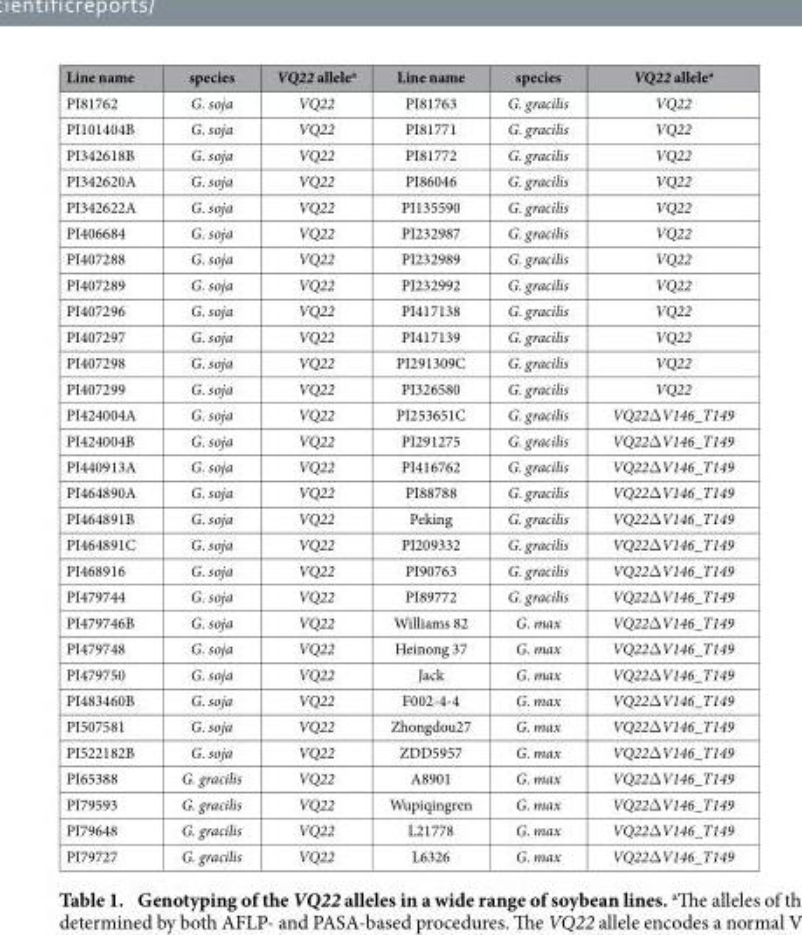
<table><thead><tr><td>Line name</td><td>species</td><td>VQ22 allele<sup>a</sup></td><td>Line name</td><td>species</td><td>VQ22 allele<sup>a</sup></td></tr></thead><tbody><tr><td>PI81762</td><td>G. soja</td><td>VQ22</td><td>PI81763</td><td>G. gracilis</td><td>VQ22</td></tr><tr><td>PI101404B</td><td>G. soja</td><td>VQ22</td><td>PI81771</td><td>G. gracilis</td><td>VQ22</td></tr><tr><td>PI342618B</td><td>G. soja</td><td>VQ22</td><td>PI81772</td><td>G. gracilis</td><td>VQ22</td></tr><tr><td>PI342620A</td><td>G. soja</td><td>VQ22</td><td>PI86046</td><td>G. gracilis</td><td>VQ22</td></tr><tr><td>PI342622A</td><td>G. soja</td><td>VQ22</td><td>PI135590</td><td>G. gracilis</td><td>VQ22</td></tr><tr><td>PI406684</td><td>G. soja</td><td>VQ22</td><td>PI232987</td><td>G. gracilis</td><td>VQ22</td></tr><tr><td>PI407288</td><td>G. soja</td><td>VQ22</td><td>PI232989</td><td>G. gracilis</td><td>VQ22</td></tr><tr><td>PI407289</td><td>G. soja</td><td>VQ22</td><td>PI232992</td><td>G. gracilis</td><td>VQ22</td></tr><tr><td>PI407296</td><td>G. soja</td><td>VQ22</td><td>PI417138</td><td>G. gracilis</td><td>VQ22</td></tr><tr><td>PI407297</td><td>G. soja</td><td>VQ22</td><td>PI417139</td><td>G. gracilis</td><td>VQ22</td></tr><tr><td>PI407298</td><td>G. soja</td><td>VQ22</td><td>PI291309C</td><td>G. gracilis</td><td>VQ22</td></tr><tr><td>PI407299</td><td>G. soja</td><td>VQ22</td><td>PI326580</td><td>G. gracilis</td><td>VQ22</td></tr><tr><td>PI424004A</td><td>G. soja</td><td>VQ22</td><td>PI253651C</td><td>G. gracilis</td><td>VQ22Δ V146_T149</td></tr><tr><td>PI424004B</td><td>G. soja</td><td>VQ22</td><td>PI291275</td><td>G. gracilis</td><td>VQ22Δ V146_T149</td></tr><tr><td>PI440913A</td><td>G. soja</td><td>VQ22</td><td>PI416762</td><td>G. gracilis</td><td>VQ22Δ V146_T149</td></tr><tr><td>PI464890A</td><td>G. soja</td><td>VQ22</td><td>PI88788</td><td>G. gracilis</td><td>VQ22Δ V146_T149</td></tr><tr><td>PI464891B</td><td>G. soja</td><td>VQ22</td><td>Peking</td><td>G. gracilis</td><td>VQ22Δ V146_T149</td></tr><tr><td>PI464891C</td><td>G. soja</td><td>VQ22</td><td>PI209332</td><td>G. gracilis</td><td>VQ22Δ V146_T149</td></tr><tr><td>PI468916</td><td>G. soja</td><td>VQ22</td><td>PI90763</td><td>G. gracilis</td><td>VQ22Δ V146_T149</td></tr><tr><td>PI479744</td><td>G. soja</td><td>VQ22</td><td>PI89772</td><td>G. gracilis</td><td>VQ22Δ V146_T149</td></tr><tr><td>PI479746B</td><td>G. soja</td><td>VQ22</td><td>Williams 82</td><td>G. max</td><td>VQ22Δ V146_T149</td></tr><tr><td>PI479748</td><td>G. soja</td><td>VQ22</td><td>Heinong 37</td><td>G. max</td><td>VQ22Δ V146_T149</td></tr><tr><td>PI479750</td><td>G. soja</td><td>VQ22</td><td>Jack</td><td>G. max</td><td>VQ22Δ V146_T149</td></tr><tr><td>PI483460B</td><td>G. soja</td><td>VQ22</td><td>F002-4-4</td><td>G. max</td><td>VQ22Δ V146_T149</td></tr><tr><td>PI507581</td><td>G. soja</td><td>VQ22</td><td>Zhongdou27</td><td>G. max</td><td>VQ22Δ V146_T149</td></tr><tr><td>PI522182B</td><td>G. soja</td><td>VQ22</td><td>ZDD5957</td><td>G. max</td><td>VQ22Δ V146_T149</td></tr><tr><td>PI65388</td><td>G. gracilis</td><td>VQ22</td><td>A8901</td><td>G. max</td><td>VQ22Δ V146_T149</td></tr><tr><td>PI79593</td><td>G. gracilis</td><td>VQ22</td><td>Wupiqingren</td><td>G. max</td><td>VQ22Δ V146_T149</td></tr><tr><td>PI79648</td><td>G. gracilis</td><td>VQ22</td><td>L21778</td><td>G. max</td><td>VQ22Δ V146_T149</td></tr><tr><td>PI79727</td><td>G. gracilis</td><td>VQ22</td><td>L6326</td><td>G. max</td><td>VQ22Δ V146_T149</td></tr></tbody></table>